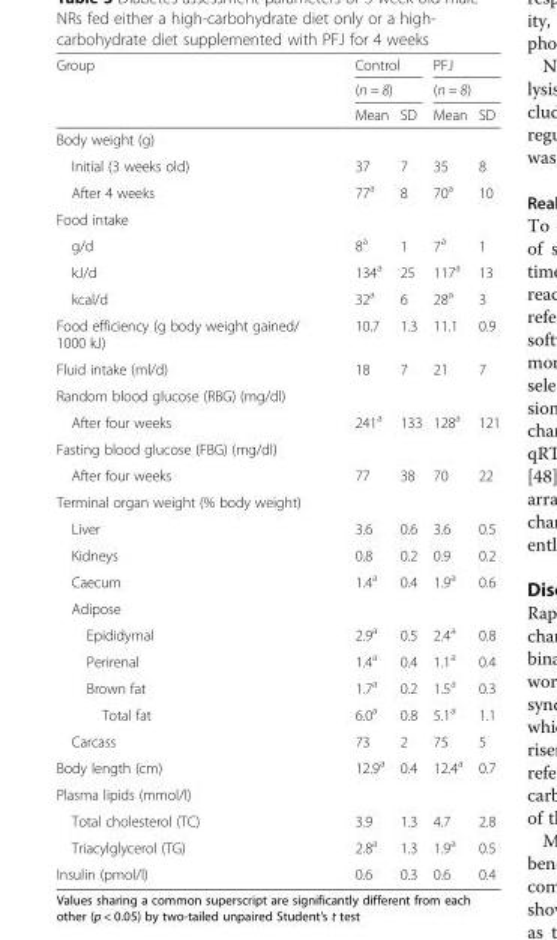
<table><thead><tr><td rowspan="3">Group</td><td rowspan="2" colspan="2">Control (n = 8)</td><td rowspan="2" colspan="2">PFJ (n = 8)</td></tr><tr></tr><tr><td>Mean</td><td>SD</td><td>Mean</td><td>SD</td></tr></thead><tbody><tr><td colspan="5">Body weight (g)</td></tr><tr><td>Initial (3 weeks old)</td><td>37</td><td>7</td><td>35</td><td>8</td></tr><tr><td>After 4 weeks</td><td>77<sup>a</sup></td><td>8</td><td>70<sup>a</sup></td><td>10</td></tr><tr><td colspan="5">Food intake</td></tr><tr><td>g/d</td><td>8<sup>a</sup></td><td>1</td><td>7<sup>a</sup></td><td>1</td></tr><tr><td>kJ/d</td><td>134<sup>a</sup></td><td>25</td><td>117<sup>a</sup></td><td>13</td></tr><tr><td>kcal/d</td><td>32<sup>a</sup></td><td>6</td><td>28<sup>a</sup></td><td>3</td></tr><tr><td>Food efficiency (g body weight gained/ 1000 kJ)</td><td>10.7</td><td>1.3</td><td>11.1</td><td>0.9</td></tr><tr><td>Fluid intake (ml/d)</td><td>18</td><td>7</td><td>21</td><td>7</td></tr><tr><td colspan="5">Random blood glucose (RBG) (mg/dl)</td></tr><tr><td>After four weeks</td><td>241<sup>a</sup></td><td>133</td><td>128<sup>a</sup></td><td>121</td></tr><tr><td colspan="5">Fasting blood glucose (FBG) (mg/dl)</td></tr><tr><td>After four weeks</td><td>77</td><td>38</td><td>70</td><td>22</td></tr><tr><td colspan="5">Terminal organ weight (% body weight)</td></tr><tr><td>Liver</td><td>3.6</td><td>0.6</td><td>3.6</td><td>0.5</td></tr><tr><td>Kidneys</td><td>0.8</td><td>0.2</td><td>0.9</td><td>0.2</td></tr><tr><td>Caecum</td><td>1.4<sup>a</sup></td><td>0.4</td><td>1.9<sup>a</sup></td><td>0.6</td></tr><tr><td colspan="5">Adipose</td></tr><tr><td>Epididymal</td><td>2.9<sup>a</sup></td><td>0.5</td><td>2.4<sup>a</sup></td><td>0.8</td></tr><tr><td>Perirenal</td><td>1.4<sup>a</sup></td><td>0.4</td><td>1.1<sup>a</sup></td><td>0.4</td></tr><tr><td>Brown fat</td><td>1.7<sup>a</sup></td><td>0.2</td><td>1.5<sup>a</sup></td><td>0.3</td></tr><tr><td>Total fat</td><td>6.0<sup>a</sup></td><td>0.8</td><td>5.1<sup>a</sup></td><td>1.1</td></tr><tr><td>Carcass</td><td>73</td><td>2</td><td>75</td><td>5</td></tr><tr><td>Body length (cm)</td><td>12.9<sup>a</sup></td><td>0.4</td><td>12.4<sup>a</sup></td><td>0.7</td></tr><tr><td colspan="5">Plasma lipids (mmol/l)</td></tr><tr><td>Total cholesterol (TC)</td><td>3.9</td><td>1.3</td><td>4.7</td><td>2.8</td></tr><tr><td>Triacylglycerol (TG)</td><td>2.8<sup>a</sup></td><td>1.3</td><td>1.9<sup>a</sup></td><td>0.5</td></tr><tr><td>Insulin (pmol/l)</td><td>0.6</td><td>0.3</td><td>0.6</td><td>0.4</td></tr></tbody></table>